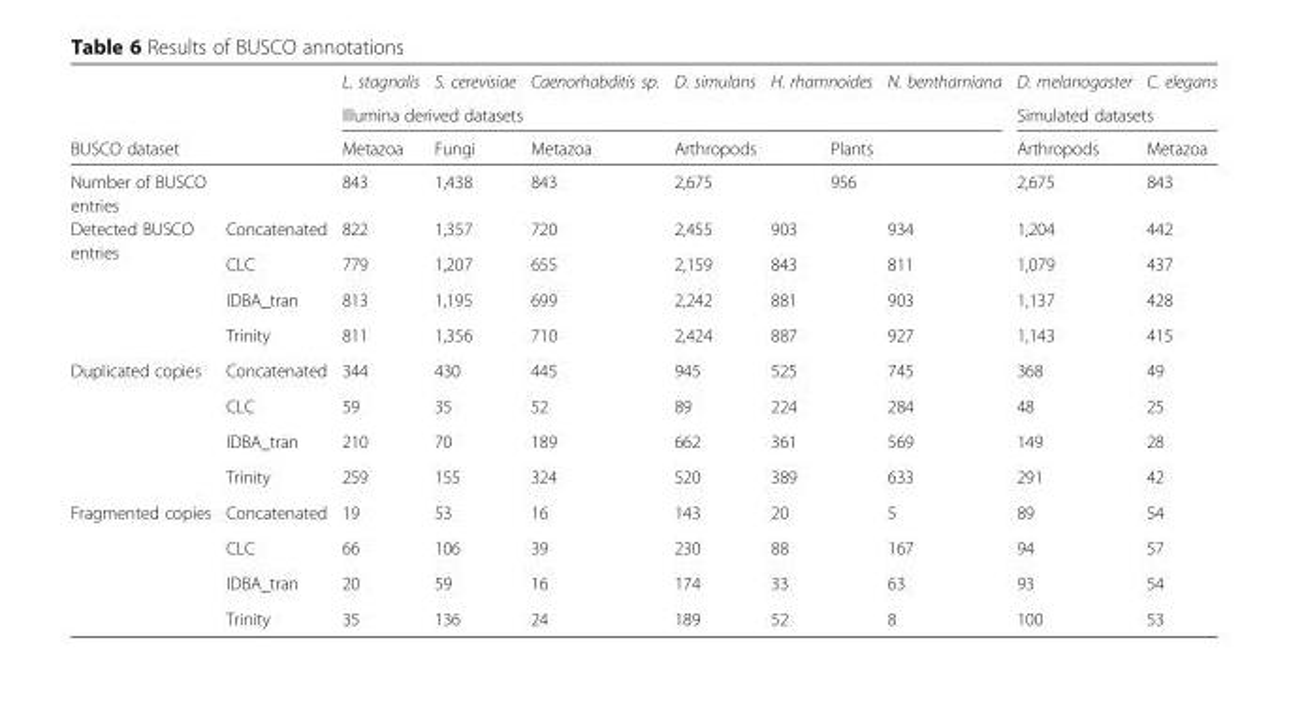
<table><thead><tr><td rowspan="2"></td><td rowspan="2"></td><td>L. stagnalis</td><td>S. cerevisiae</td><td>Caenorhabditis sp.</td><td>D. simulans</td><td>H. rhamnoides</td><td>N. benthamiana</td><td>D. melanogaster</td><td>C. elegans</td></tr><tr><td colspan="6">Illumina derived datasets</td><td colspan="2">Simulated datasets</td></tr><tr><td colspan="2">BUSCO dataset</td><td>Metazoa</td><td>Fungi</td><td>Metazoa</td><td>Arthropods</td><td colspan="2">Plants</td><td>Arthropods</td><td>Metazoa</td></tr></thead><tbody><tr><td>Number of BUSCO entries</td><td></td><td>843</td><td>1,438</td><td>843</td><td>2,675</td><td colspan="2">956</td><td>2,675</td><td>843</td></tr><tr><td rowspan="4">Detected BUSCO entries</td><td>Concatenated</td><td>822</td><td>1,357</td><td>720</td><td>2,455</td><td>903</td><td>934</td><td>1,204</td><td>442</td></tr><tr><td>CLC</td><td>779</td><td>1,207</td><td>655</td><td>2,159</td><td>843</td><td>811</td><td>1,079</td><td>437</td></tr><tr><td>IDBA_tran</td><td>813</td><td>1,195</td><td>699</td><td>2,242</td><td>881</td><td>903</td><td>1,137</td><td>428</td></tr><tr><td>Trinity</td><td>811</td><td>1,356</td><td>710</td><td>2,424</td><td>887</td><td>927</td><td>1,143</td><td>415</td></tr><tr><td rowspan="4">Duplicated copies</td><td>Concatenated</td><td>344</td><td>430</td><td>445</td><td>945</td><td>525</td><td>745</td><td>368</td><td>49</td></tr><tr><td>CLC</td><td>59</td><td>35</td><td>52</td><td>89</td><td>224</td><td>284</td><td>48</td><td>25</td></tr><tr><td>IDBA_tran</td><td>210</td><td>70</td><td>189</td><td>662</td><td>361</td><td>569</td><td>149</td><td>28</td></tr><tr><td>Trinity</td><td>259</td><td>155</td><td>324</td><td>520</td><td>389</td><td>633</td><td>291</td><td>42</td></tr><tr><td rowspan="4">Fragmented copies</td><td>Concatenated</td><td>19</td><td>53</td><td>16</td><td>143</td><td>20</td><td>5</td><td>89</td><td>54</td></tr><tr><td>CLC</td><td>66</td><td>106</td><td>39</td><td>230</td><td>88</td><td>167</td><td>94</td><td>57</td></tr><tr><td>IDBA_tran</td><td>20</td><td>59</td><td>16</td><td>174</td><td>33</td><td>63</td><td>93</td><td>54</td></tr><tr><td>Trinity</td><td>35</td><td>136</td><td>24</td><td>189</td><td>52</td><td>8</td><td>100</td><td>53</td></tr></tbody></table>